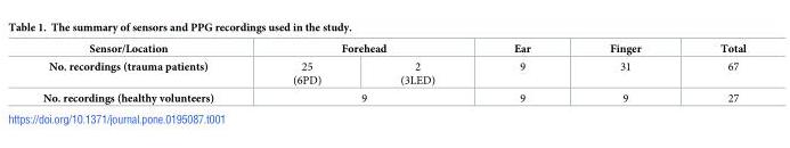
<table><thead><tr><td rowspan="2">Sensor/Location No. recordings (trauma patients)</td><td colspan="2">Forehead</td><td rowspan="2">Ear 9</td><td rowspan="2">Finger 31</td><td rowspan="2">Total 67</td></tr><tr><td>25 (6PD)</td><td>2 (3LED)</td></tr></thead><tbody><tr><td>No. recordings (healthy volunteers)</td><td colspan="2">9</td><td>9</td><td>9</td><td>27</td></tr></tbody></table>